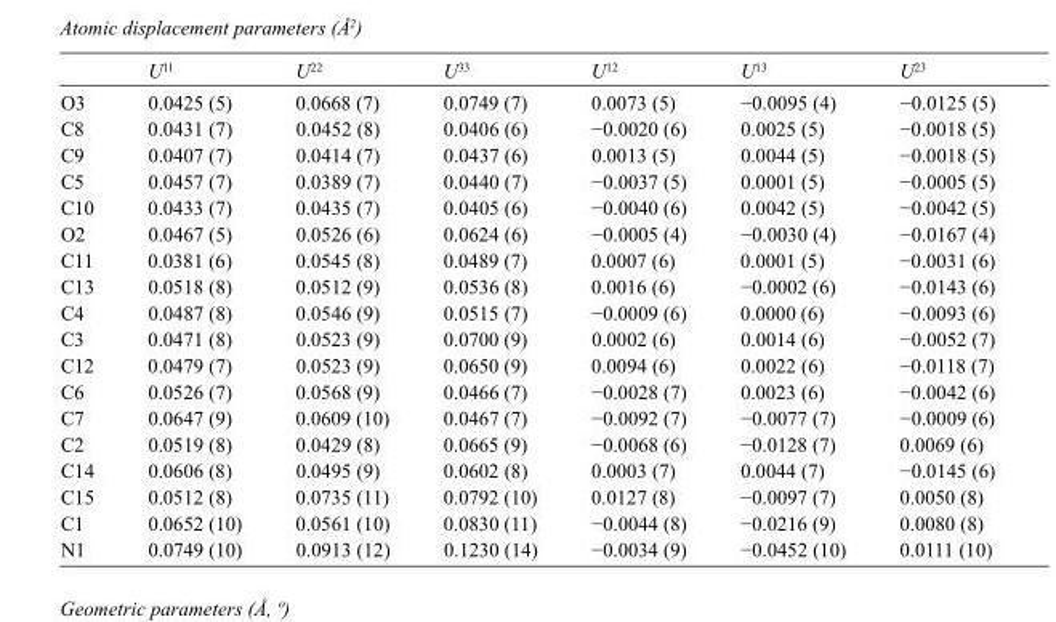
<table><thead><tr><td></td><td>U<sup>11</sup></td><td>U<sup>22</sup></td><td>U<sup>33</sup></td><td>U<sup>12</sup></td><td>U<sup>13</sup></td><td>U<sup>23</sup></td></tr></thead><tbody><tr><td>O3</td><td>0.0425 (5)</td><td>0.0668 (7)</td><td>0.0749 (7)</td><td>0.0073 (5)</td><td>−0.0095 (4)</td><td>−0.0125 (5)</td></tr><tr><td>C8</td><td>0.0431 (7)</td><td>0.0452 (8)</td><td>0.0406 (6)</td><td>−0.0020 (6)</td><td>0.0025 (5)</td><td>−0.0018 (5)</td></tr><tr><td>C9</td><td>0.0407 (7)</td><td>0.0414 (7)</td><td>0.0437 (6)</td><td>0.0013 (5)</td><td>0.0044 (5)</td><td>−0.0018 (5)</td></tr><tr><td>C5</td><td>0.0457 (7)</td><td>0.0389 (7)</td><td>0.0440 (7)</td><td>−0.0037 (5)</td><td>0.0001 (5)</td><td>−0.0005 (5)</td></tr><tr><td>C10</td><td>0.0433 (7)</td><td>0.0435 (7)</td><td>0.0405 (6)</td><td>−0.0040 (6)</td><td>0.0042 (5)</td><td>−0.0042 (5)</td></tr><tr><td>O2</td><td>0.0467 (5)</td><td>0.0526 (6)</td><td>0.0624 (6)</td><td>−0.0005 (4)</td><td>−0.0030 (4)</td><td>−0.0167 (4)</td></tr><tr><td>C11</td><td>0.0381 (6)</td><td>0.0545 (8)</td><td>0.0489 (7)</td><td>0.0007 (6)</td><td>0.0001 (5)</td><td>−0.0031 (6)</td></tr><tr><td>C13</td><td>0.0518 (8)</td><td>0.0512 (9)</td><td>0.0536 (8)</td><td>0.0016 (6)</td><td>−0.0002 (6)</td><td>−0.0143 (6)</td></tr><tr><td>C4</td><td>0.0487 (8)</td><td>0.0546 (9)</td><td>0.0515 (7)</td><td>−0.0009 (6)</td><td>0.0000 (6)</td><td>−0.0093 (6)</td></tr><tr><td>C3</td><td>0.0471 (8)</td><td>0.0523 (9)</td><td>0.0700 (9)</td><td>0.0002 (6)</td><td>0.0014 (6)</td><td>−0.0052 (7)</td></tr><tr><td>C12</td><td>0.0479 (7)</td><td>0.0523 (9)</td><td>0.0650 (9)</td><td>0.0094 (6)</td><td>0.0022 (6)</td><td>−0.0118 (7)</td></tr><tr><td>C6</td><td>0.0526 (7)</td><td>0.0568 (9)</td><td>0.0466 (7)</td><td>−0.0028 (7)</td><td>0.0023 (6)</td><td>−0.0042 (6)</td></tr><tr><td>C7</td><td>0.0647 (9)</td><td>0.0609 (10)</td><td>0.0467 (7)</td><td>−0.0092 (7)</td><td>−0.0077 (7)</td><td>−0.0009 (6)</td></tr><tr><td>C2</td><td>0.0519 (8)</td><td>0.0429 (8)</td><td>0.0665 (9)</td><td>−0.0068 (6)</td><td>−0.0128 (7)</td><td>0.0069 (6)</td></tr><tr><td>C14</td><td>0.0606 (8)</td><td>0.0495 (9)</td><td>0.0602 (8)</td><td>0.0003 (7)</td><td>0.0044 (7)</td><td>−0.0145 (6)</td></tr><tr><td>C15</td><td>0.0512 (8)</td><td>0.0735 (11)</td><td>0.0792 (10)</td><td>0.0127 (8)</td><td>−0.0097 (7)</td><td>0.0050 (8)</td></tr><tr><td>C1</td><td>0.0652 (10)</td><td>0.0561 (10)</td><td>0.0830 (11)</td><td>−0.0044 (8)</td><td>−0.0216 (9)</td><td>0.0080 (8)</td></tr><tr><td>N1</td><td>0.0749 (10)</td><td>0.0913 (12)</td><td>0.1230 (14)</td><td>−0.0034 (9)</td><td>−0.0452 (10)</td><td>0.0111 (10)</td></tr></tbody></table>